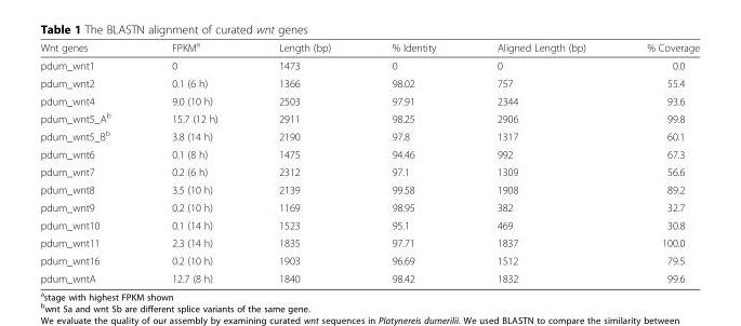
<table><thead><tr><td>Wnt genes</td><td>FPKM<sup>a</sup></td><td>Length (bp)</td><td>% Identity</td><td>Aligned Length (bp)</td><td>% Coverage</td></tr></thead><tbody><tr><td>pdum_wnt1</td><td>0</td><td>1473</td><td>0</td><td>0</td><td>0.0</td></tr><tr><td>pdum_wnt2</td><td>0.1 (6 h)</td><td>1366</td><td>98.02</td><td>757</td><td>55.4</td></tr><tr><td>pdum_wnt4</td><td>9.0 (10 h)</td><td>2503</td><td>97.91</td><td>2344</td><td>93.6</td></tr><tr><td>pdum_wnt5_A<sup>b</sup></td><td>15.7 (12 h)</td><td>2911</td><td>98.25</td><td>2906</td><td>99.8</td></tr><tr><td>pdum_wnt5_B<sup>b</sup></td><td>3.8 (14 h)</td><td>2190</td><td>97.8</td><td>1317</td><td>60.1</td></tr><tr><td>pdum_wnt6</td><td>0.1 (8 h)</td><td>1475</td><td>94.46</td><td>992</td><td>67.3</td></tr><tr><td>pdum_wnt7</td><td>0.2 (6 h)</td><td>2312</td><td>97.1</td><td>1309</td><td>56.6</td></tr><tr><td>pdum_wnt8</td><td>3.5 (10 h)</td><td>2139</td><td>99.58</td><td>1908</td><td>89.2</td></tr><tr><td>pdum_wnt9</td><td>0.2 (10 h)</td><td>1169</td><td>98.95</td><td>382</td><td>32.7</td></tr><tr><td>pdum_wnt10</td><td>0.1 (14 h)</td><td>1523</td><td>95.1</td><td>469</td><td>30.8</td></tr><tr><td>pdum_wnt11</td><td>2.3 (14 h)</td><td>1835</td><td>97.71</td><td>1837</td><td>100.0</td></tr><tr><td>pdum_wnt16</td><td>0.2 (10 h)</td><td>1903</td><td>96.69</td><td>1512</td><td>79.5</td></tr><tr><td>pdum_wntA</td><td>12.7 (8 h)</td><td>1840</td><td>98.42</td><td>1832</td><td>99.6</td></tr></tbody></table>